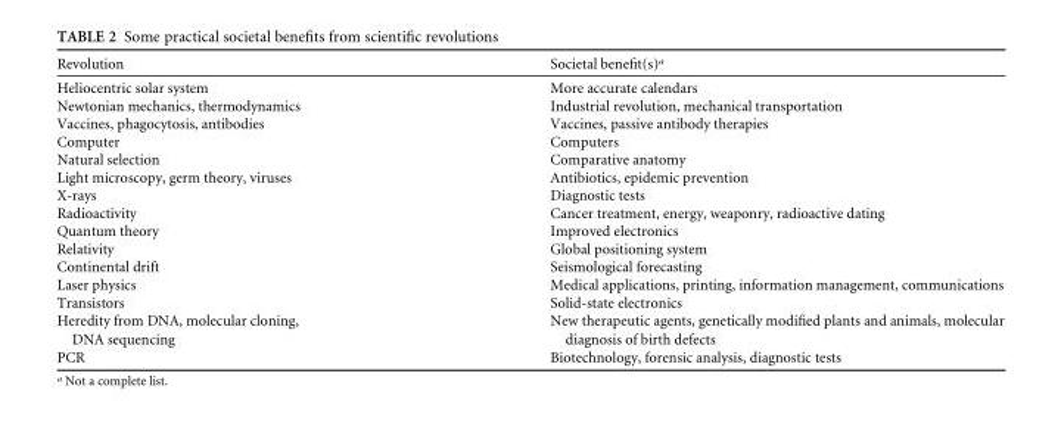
<table><thead><tr><td>Revolution</td><td>Societal benefit(s)<sup>a</sup></td></tr></thead><tbody><tr><td>Heliocentric solar system</td><td>More accurate calendars</td></tr><tr><td>Newtonian mechanics, thermodynamics</td><td>Industrial revolution, mechanical transportation</td></tr><tr><td>Vaccines, phagocytosis, antibodies</td><td>Vaccines, passive antibody therapies</td></tr><tr><td>Computer</td><td>Computers</td></tr><tr><td>Natural selection</td><td>Comparative anatomy</td></tr><tr><td>Light microscopy, germ theory, viruses</td><td>Antibiotics, epidemic prevention</td></tr><tr><td>X-rays</td><td>Diagnostic tests</td></tr><tr><td>Radioactivity</td><td>Cancer treatment, energy, weaponry, radioactive dating</td></tr><tr><td>Quantum theory</td><td>Improved electronics</td></tr><tr><td>Relativity</td><td>Global positioning system</td></tr><tr><td>Continental drift</td><td>Seismological forecasting</td></tr><tr><td>Laser physics</td><td>Medical applications, printing, information management, communications</td></tr><tr><td>Transistors</td><td>Solid-state electronics</td></tr><tr><td>Heredity from DNA, molecular cloning, DNA sequencing</td><td>New therapeutic agents, genetically modified plants and animals, molecular diagnosis of birth defects</td></tr><tr><td>PCR</td><td>Biotechnology, forensic analysis, diagnostic tests</td></tr></tbody></table>